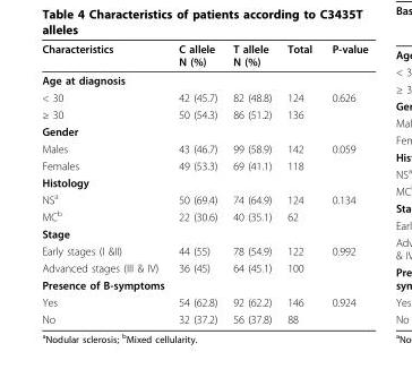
<table><thead><tr><td>Characteristics</td><td>C allele N (%)</td><td>T allele N (%)</td><td>Total</td><td>P-value</td></tr></thead><tbody><tr><td colspan="5">Age at diagnosis</td></tr><tr><td>&lt; 30</td><td>42 (45.7)</td><td>82 (48.8)</td><td>124</td><td>0.626</td></tr><tr><td>≥ 30</td><td>50 (54.3)</td><td>86 (51.2)</td><td>136</td><td></td></tr><tr><td colspan="5">Gender</td></tr><tr><td>Males</td><td>43 (46.7)</td><td>99 (58.9)</td><td>142</td><td>0.059</td></tr><tr><td>Females</td><td>49 (53.3)</td><td>69 (41.1)</td><td>118</td><td></td></tr><tr><td colspan="5">Histology</td></tr><tr><td>NS<sup>a</sup></td><td>50 (69.4)</td><td>74 (64.9)</td><td>124</td><td>0.134</td></tr><tr><td>MC<sup>b</sup></td><td>22 (30.6)</td><td>40 (35.1)</td><td>62</td><td></td></tr><tr><td colspan="5">Stage</td></tr><tr><td>Early stages (I &amp;II)</td><td>44 (55)</td><td>78 (54.9)</td><td>122</td><td>0.992</td></tr><tr><td>Advanced stages (III &amp; IV)</td><td>36 (45)</td><td>64 (45.1)</td><td>100</td><td></td></tr><tr><td colspan="5">Presence of B-symptoms</td></tr><tr><td>Yes</td><td>54 (62.8)</td><td>92 (62.2)</td><td>146</td><td>0.924</td></tr><tr><td>No</td><td>32 (37.2)</td><td>56 (37.8)</td><td>88</td><td></td></tr></tbody></table>